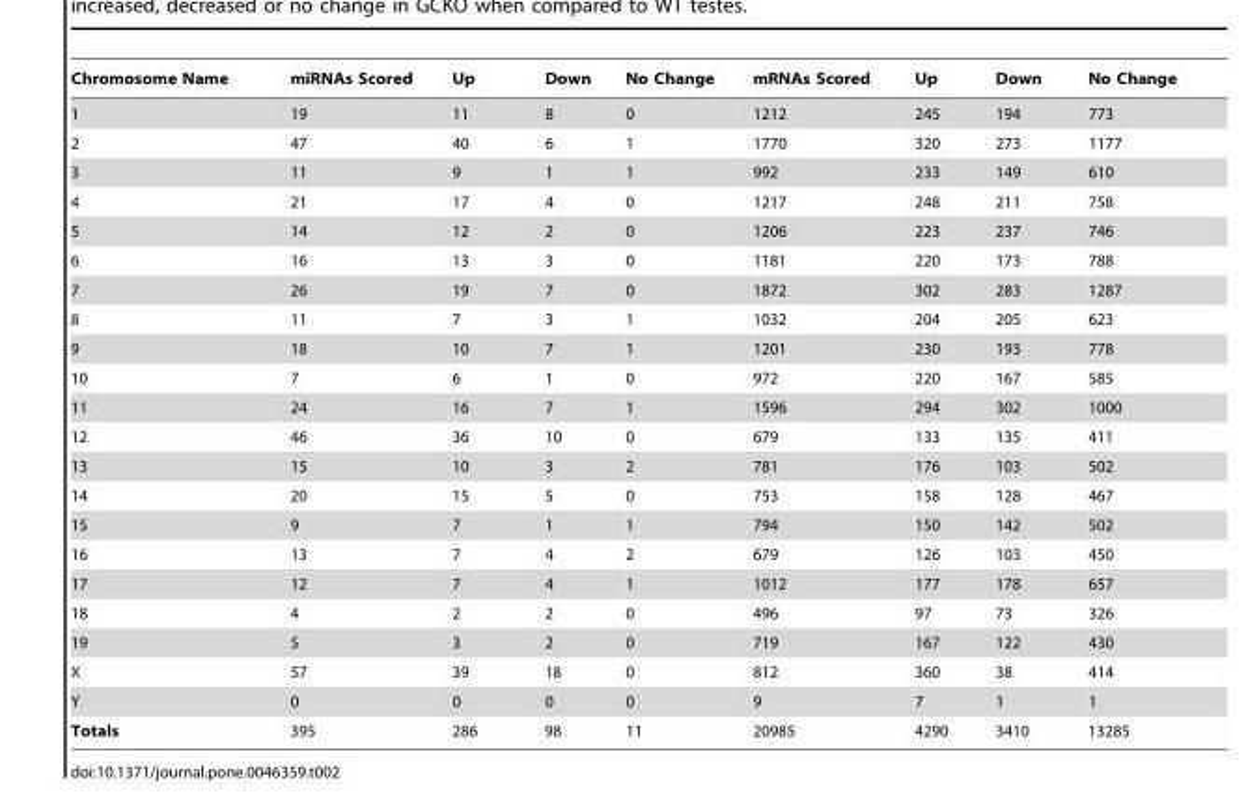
<table><thead><tr><td>Chromosome Name</td><td>miRNAs Scored</td><td>Up</td><td>Down</td><td>No Change</td><td>mRNAs Scored</td><td>Up</td><td>Down</td><td>No Change</td></tr></thead><tbody><tr><td>1</td><td>19</td><td>11</td><td>8</td><td>0</td><td>1212</td><td>245</td><td>194</td><td>773</td></tr><tr><td>2</td><td>47</td><td>40</td><td>6</td><td>1</td><td>1770</td><td>320</td><td>273</td><td>1177</td></tr><tr><td>3</td><td>11</td><td>9</td><td>1</td><td>1</td><td>992</td><td>233</td><td>149</td><td>610</td></tr><tr><td>4</td><td>21</td><td>17</td><td>4</td><td>0</td><td>1217</td><td>248</td><td>211</td><td>758</td></tr><tr><td>5</td><td>14</td><td>12</td><td>2</td><td>0</td><td>1206</td><td>223</td><td>237</td><td>746</td></tr><tr><td>6</td><td>16</td><td>13</td><td>3</td><td>0</td><td>1181</td><td>220</td><td>173</td><td>788</td></tr><tr><td>7</td><td>26</td><td>19</td><td>7</td><td>0</td><td>1872</td><td>302</td><td>283</td><td>1287</td></tr><tr><td>8</td><td>11</td><td>7</td><td>3</td><td>1</td><td>1032</td><td>204</td><td>205</td><td>623</td></tr><tr><td>9</td><td>18</td><td>10</td><td>7</td><td>1</td><td>1201</td><td>230</td><td>193</td><td>778</td></tr><tr><td>10</td><td>7</td><td>6</td><td>1</td><td>0</td><td>972</td><td>220</td><td>167</td><td>585</td></tr><tr><td>11</td><td>24</td><td>16</td><td>7</td><td>1</td><td>1596</td><td>294</td><td>302</td><td>1000</td></tr><tr><td>12</td><td>46</td><td>36</td><td>10</td><td>0</td><td>679</td><td>133</td><td>135</td><td>411</td></tr><tr><td>13</td><td>15</td><td>10</td><td>3</td><td>2</td><td>781</td><td>176</td><td>103</td><td>502</td></tr><tr><td>14</td><td>20</td><td>15</td><td>5</td><td>0</td><td>753</td><td>158</td><td>128</td><td>467</td></tr><tr><td>15</td><td>9</td><td>7</td><td>1</td><td>1</td><td>794</td><td>150</td><td>142</td><td>502</td></tr><tr><td>16</td><td>13</td><td>7</td><td>4</td><td>2</td><td>679</td><td>126</td><td>103</td><td>450</td></tr><tr><td>17</td><td>12</td><td>7</td><td>4</td><td>1</td><td>1012</td><td>177</td><td>178</td><td>657</td></tr><tr><td>18</td><td>4</td><td>2</td><td>2</td><td>0</td><td>496</td><td>97</td><td>73</td><td>326</td></tr><tr><td>19</td><td>5</td><td>3</td><td>2</td><td>0</td><td>719</td><td>167</td><td>122</td><td>430</td></tr><tr><td>X</td><td>57</td><td>39</td><td>18</td><td>0</td><td>812</td><td>360</td><td>38</td><td>414</td></tr><tr><td>Y</td><td>0</td><td>0</td><td>0</td><td>0</td><td>9</td><td>7</td><td>1</td><td>1</td></tr><tr><td>Totals</td><td>395</td><td>286</td><td>98</td><td>11</td><td>20985</td><td>4290</td><td>3410</td><td>13285</td></tr></tbody></table>